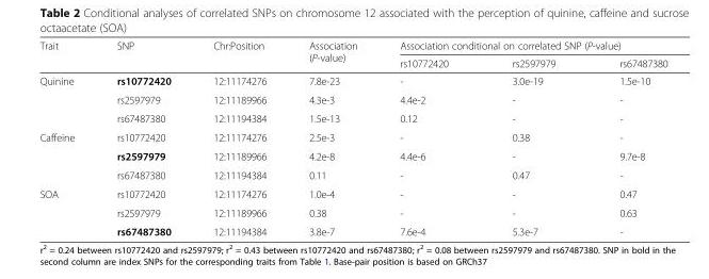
<table><thead><tr><td rowspan="2">Trait</td><td rowspan="2">SNP</td><td rowspan="2">Chr:Position</td><td rowspan="2">Association (P-value)</td><td colspan="3">Association conditional on correlated SNP (P-value)</td></tr><tr><td>rs10772420</td><td>rs2597979</td><td>rs67487380</td></tr></thead><tbody><tr><td rowspan="3">Quinine</td><td>rs10772420</td><td>12:11174276</td><td>7.8e-23</td><td>-</td><td>3.0e-19</td><td>1.5e-10</td></tr><tr><td>rs2597979</td><td>12:11189966</td><td>4.3e-3</td><td>4.4e-2</td><td>-</td><td>-</td></tr><tr><td>rs67487380</td><td>12:11194384</td><td>1.5e-13</td><td>0.12</td><td>-</td><td>-</td></tr><tr><td rowspan="3">Caffeine</td><td>rs10772420</td><td>12:11174276</td><td>2.5e-3</td><td>-</td><td>0.38</td><td>-</td></tr><tr><td>rs2597979</td><td>12:11189966</td><td>4.2e-8</td><td>4.4e-6</td><td>-</td><td>9.7e-8</td></tr><tr><td>rs67487380</td><td>12:11194384</td><td>0.11</td><td>-</td><td>0.47</td><td>-</td></tr><tr><td rowspan="3">SOA</td><td>rs10772420</td><td>12:11174276</td><td>1.0e-4</td><td>-</td><td>-</td><td>0.47</td></tr><tr><td>rs2597979</td><td>12:11189966</td><td>0.38</td><td>-</td><td>-</td><td>0.63</td></tr><tr><td>rs67487380</td><td>12:11194384</td><td>3.8e-7</td><td>7.6e-4</td><td>5.3e-7</td><td>-</td></tr></tbody></table>